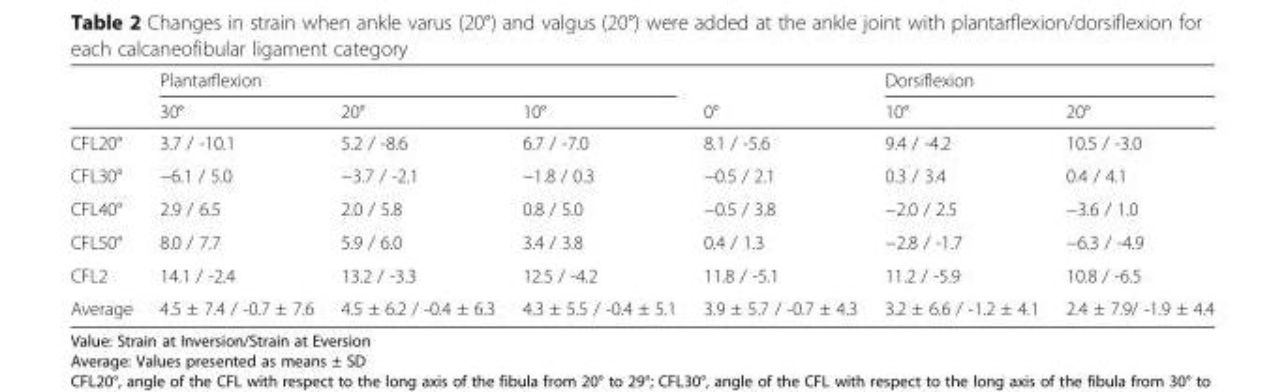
<table><thead><tr><td rowspan="2"></td><td colspan="3">Plantarflexion</td><td rowspan="2">0°</td><td colspan="2">Dorsiflexion</td></tr><tr><td>30°</td><td>20°</td><td>10°</td><td>10°</td><td>20°</td></tr></thead><tbody><tr><td>CFL20°</td><td>3.7 / -10.1</td><td>5.2 / -8.6</td><td>6.7 / -7.0</td><td>8.1 / -5.6</td><td>9.4 / -4.2</td><td>10.5 / -3.0</td></tr><tr><td>CFL30°</td><td>−6.1 / 5.0</td><td>−3.7 / -2.1</td><td>−1.8 / 0.3</td><td>−0.5 / 2.1</td><td>0.3 / 3.4</td><td>0.4 / 4.1</td></tr><tr><td>CFL40°</td><td>2.9 / 6.5</td><td>2.0 / 5.8</td><td>0.8 / 5.0</td><td>−0.5 / 3.8</td><td>−2.0 / 2.5</td><td>−3.6 / 1.0</td></tr><tr><td>CFL50°</td><td>8.0 / 7.7</td><td>5.9 / 6.0</td><td>3.4 / 3.8</td><td>0.4 / 1.3</td><td>−2.8 / -1.7</td><td>−6.3 / -4.9</td></tr><tr><td>CFL2</td><td>14.1 / -2.4</td><td>13.2 / -3.3</td><td>12.5 / -4.2</td><td>11.8 / -5.1</td><td>11.2 / -5.9</td><td>10.8 / -6.5</td></tr><tr><td>Average</td><td>4.5 ± 7.4 / -0.7 ± 7.6</td><td>4.5 ± 6.2 / -0.4 ± 6.3</td><td>4.3 ± 5.5 / -0.4 ± 5.1</td><td>3.9 ± 5.7 / -0.7 ± 4.3</td><td>3.2 ± 6.6 / -1.2 ± 4.1</td><td>2.4 ± 7.9/ -1.9 ± 4.4</td></tr></tbody></table>